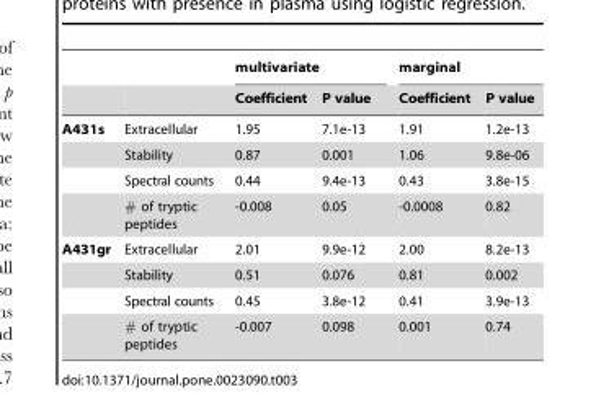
<table><thead><tr><td rowspan="2"></td><td rowspan="2"></td><td colspan="2">multivariate</td><td colspan="2">marginal</td></tr><tr><td>Coefficient</td><td>P value</td><td>Coefficient</td><td>P value</td></tr></thead><tbody><tr><td rowspan="4">A431s</td><td>Extracellular</td><td>1.95</td><td>7.1e-13</td><td>1.91</td><td>1.2e-13</td></tr><tr><td>Stability</td><td>0.87</td><td>0.001</td><td>1.06</td><td>9.8e-06</td></tr><tr><td>Spectral counts</td><td>0.44</td><td>9.4e-13</td><td>0.43</td><td>3.8e-15</td></tr><tr><td># of tryptic peptides</td><td>-0.008</td><td>0.05</td><td>-0.0008</td><td>0.82</td></tr><tr><td rowspan="4">A431gr</td><td>Extracellular</td><td>2.01</td><td>9.9e-12</td><td>2.00</td><td>8.2e-13</td></tr><tr><td>Stability</td><td>0.51</td><td>0.076</td><td>0.81</td><td>0.002</td></tr><tr><td>Spectral counts</td><td>0.45</td><td>3.8e-12</td><td>0.41</td><td>3.9e-13</td></tr><tr><td># of tryptic peptides</td><td>-0.007</td><td>0.098</td><td>0.001</td><td>0.74</td></tr></tbody></table>